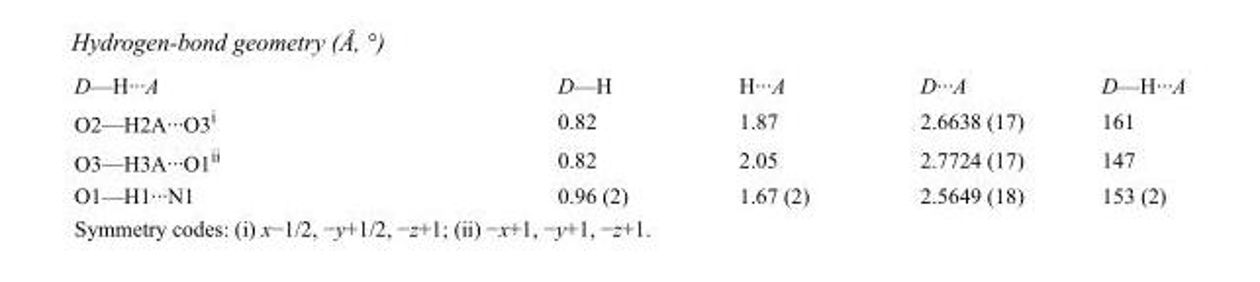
<table><tbody><tr><td>D—H···A</td><td>D—H</td><td>H···A</td><td>D···A</td><td>D—H···A</td></tr><tr><td>O2—H2A···O3<sup>i</sup></td><td>0.82</td><td>1.87</td><td>2.6638 (17)</td><td>161</td></tr><tr><td>O3—H3A···O1<sup>ii</sup></td><td>0.82</td><td>2.05</td><td>2.7724 (17)</td><td>147</td></tr><tr><td>O1—H1···N1</td><td>0.96 (2)</td><td>1.67 (2)</td><td>2.5649 (18)</td><td>153 (2)</td></tr></tbody></table>